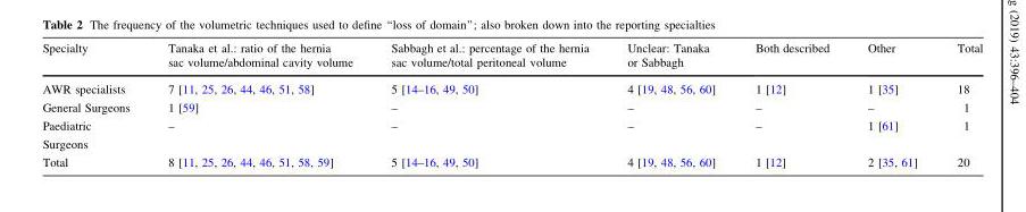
<table><thead><tr><td>Specialty</td><td>Tanaka et al.: ratio of the hernia sac volume/abdominal cavity volume</td><td>Sabbagh et al.: percentage of the hernia sac volume/total peritoneal volume</td><td>Unclear: Tanaka or Sabbagh</td><td>Both described</td><td>Other</td><td>Total</td></tr></thead><tbody><tr><td>AWR specialists</td><td>7 [11, 25, 26, 44, 46, 51, 58]</td><td>5 [14–16, 49, 50]</td><td>4 [19, 48, 56, 60]</td><td>1 [12]</td><td>1 [35]</td><td>18</td></tr><tr><td>General Surgeons</td><td>1 [59]</td><td>–</td><td>–</td><td>–</td><td>–</td><td>1</td></tr><tr><td>Paediatric Surgeons</td><td>–</td><td>–</td><td>–</td><td>–</td><td>1 [61]</td><td>1</td></tr><tr><td>Total</td><td>8 [11, 25, 26, 44, 46, 51, 58, 59]</td><td>5 [14–16, 49, 50]</td><td>4 [19, 48, 56, 60]</td><td>1 [12]</td><td>2 [35, 61]</td><td>20</td></tr></tbody></table>